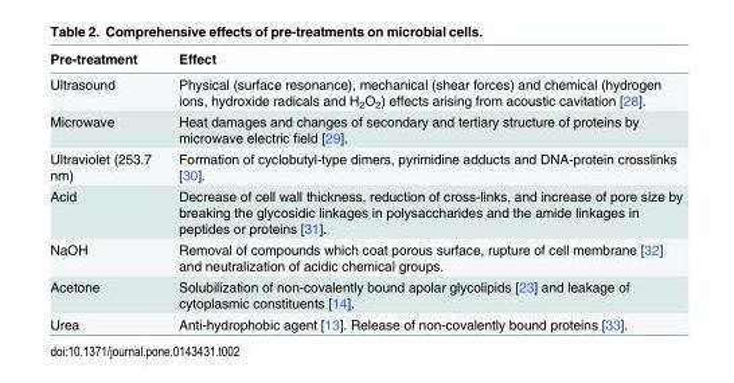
<table><thead><tr><td>Pre-treatment</td><td>Effect</td></tr></thead><tbody><tr><td>Ultrasound</td><td>Physical (surface resonance), mechanical (shear forces) and chemical (hydrogen ions, hydroxide radicals and H<sub>2</sub>O<sub>2</sub>) effects arising from acoustic cavitation [28].</td></tr><tr><td>Microwave</td><td>Heat damages and changes of secondary and tertiary structure of proteins by microwave electric field [29].</td></tr><tr><td>Ultraviolet (253.7 nm)</td><td>Formation of cyclobutyl-type dimers, pyrimidine adducts and DNA-protein crosslinks [30].</td></tr><tr><td>Acid</td><td>Decrease of cell wall thickness, reduction of cross-links, and increase of pore size by breaking the glycosidic linkages in polysaccharides and the amide linkages in peptides or proteins [31].</td></tr><tr><td>NaOH</td><td>Removal of compounds which coat porous surface, rupture of cell membrane [32] and neutralization of acidic chemical groups.</td></tr><tr><td>Acetone</td><td>Solubilization of non-covalently bound apolar glycolipids [23] and leakage of cytoplasmic constituents [14].</td></tr><tr><td>Urea</td><td>Anti-hydrophobic agent [13]. Release of non-covalently bound proteins [33].</td></tr></tbody></table>